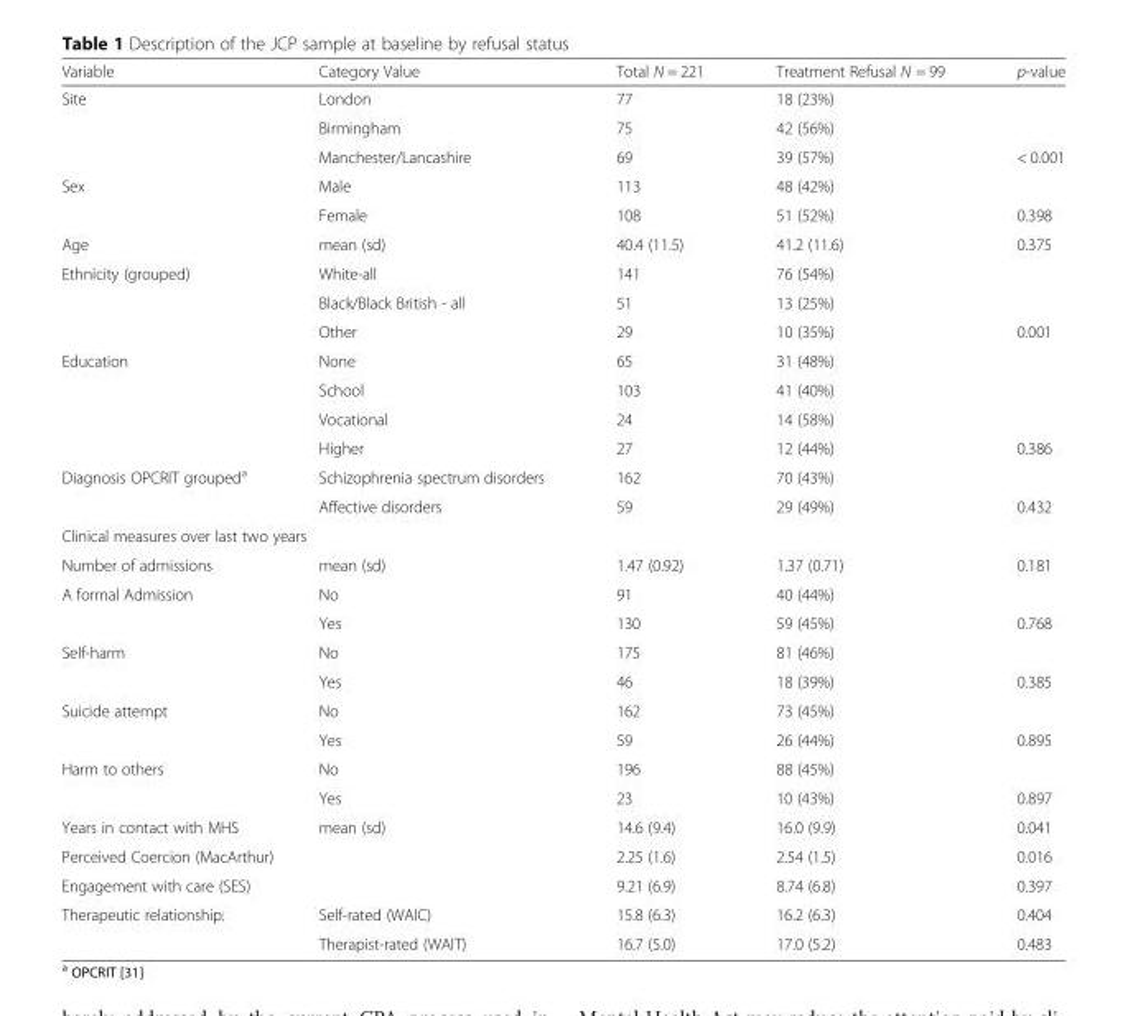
<table><thead><tr><td>Variable</td><td>Category Value</td><td>Total N = 221</td><td>Treatment Refusal N = 99</td><td>p-value</td></tr></thead><tbody><tr><td rowspan="3">Site</td><td>London</td><td>77</td><td>18 (23%)</td><td></td></tr><tr><td>Birmingham</td><td>75</td><td>42 (56%)</td><td></td></tr><tr><td>Manchester/Lancashire</td><td>69</td><td>39 (57%)</td><td>&lt; 0.001</td></tr><tr><td rowspan="2">Sex</td><td>Male</td><td>113</td><td>48 (42%)</td><td></td></tr><tr><td>Female</td><td>108</td><td>51 (52%)</td><td>0.398</td></tr><tr><td>Age</td><td>mean (sd)</td><td>40.4 (11.5)</td><td>41.2 (11.6)</td><td>0.375</td></tr><tr><td rowspan="3">Ethnicity (grouped)</td><td>White-all</td><td>141</td><td>76 (54%)</td><td></td></tr><tr><td>Black/Black British - all</td><td>51</td><td>13 (25%)</td><td></td></tr><tr><td>Other</td><td>29</td><td>10 (35%)</td><td>0.001</td></tr><tr><td rowspan="4">Education</td><td>None</td><td>65</td><td>31 (48%)</td><td></td></tr><tr><td>School</td><td>103</td><td>41 (40%)</td><td></td></tr><tr><td>Vocational</td><td>24</td><td>14 (58%)</td><td></td></tr><tr><td>Higher</td><td>27</td><td>12 (44%)</td><td>0.386</td></tr><tr><td rowspan="2">Diagnosis OPCRIT grouped<sup>a</sup></td><td>Schizophrenia spectrum disorders</td><td>162</td><td>70 (43%)</td><td></td></tr><tr><td>Affective disorders</td><td>59</td><td>29 (49%)</td><td>0.432</td></tr><tr><td colspan="5">Clinical measures over last two years</td></tr><tr><td>Number of admissions</td><td>mean (sd)</td><td>1.47 (0.92)</td><td>1.37 (0.71)</td><td>0.181</td></tr><tr><td rowspan="2">A formal Admission</td><td>No</td><td>91</td><td>40 (44%)</td><td></td></tr><tr><td>Yes</td><td>130</td><td>59 (45%)</td><td>0.768</td></tr><tr><td rowspan="2">Self-harm</td><td>No</td><td>175</td><td>81 (46%)</td><td></td></tr><tr><td>Yes</td><td>46</td><td>18 (39%)</td><td>0.385</td></tr><tr><td rowspan="2">Suicide attempt</td><td>No</td><td>162</td><td>73 (45%)</td><td></td></tr><tr><td>Yes</td><td>59</td><td>26 (44%)</td><td>0.895</td></tr><tr><td rowspan="2">Harm to others</td><td>No</td><td>196</td><td>88 (45%)</td><td></td></tr><tr><td>Yes</td><td>23</td><td>10 (43%)</td><td>0.897</td></tr><tr><td>Years in contact with MHS</td><td>mean (sd)</td><td>14.6 (9.4)</td><td>16.0 (9.9)</td><td>0.041</td></tr><tr><td colspan="2">Perceived Coercion (MacArthur)</td><td>2.25 (1.6)</td><td>2.54 (1.5)</td><td>0.016</td></tr><tr><td colspan="2">Engagement with care (SES)</td><td>9.21 (6.9)</td><td>8.74 (6.8)</td><td>0.397</td></tr><tr><td rowspan="2">Therapeutic relationship:</td><td>Self-rated (WAIC)</td><td>15.8 (6.3)</td><td>16.2 (6.3)</td><td>0.404</td></tr><tr><td>Therapist-rated (WAIT)</td><td>16.7 (5.0)</td><td>17.0 (5.2)</td><td>0.483</td></tr></tbody></table>